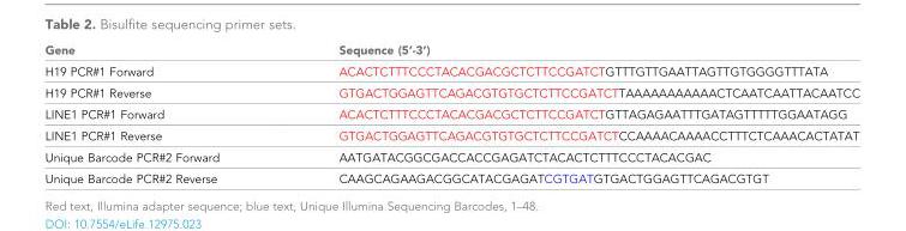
<table><thead><tr><td>Gene</td><td>Sequence (5’-3’)</td></tr></thead><tbody><tr><td>H19 PCR#1 Forward</td><td>ACACTCTTTCCCTACACGACGCTCTTCCGATCTGTTTGTTGAATTAGTTGTGGGGTTTATA</td></tr><tr><td>H19 PCR#1 Reverse</td><td>GTGACTGGAGTTCAGACGTGTGCTCTTCCGATCTTAAAAAAAAAAACTCAATCAATTACAATCC</td></tr><tr><td>LINE1 PCR#1 Forward</td><td>ACACTCTTTCCCTACACGACGCTCTTCCGATCTGTTAGAGAATTTGATAGTTTTTGGAATAGG</td></tr><tr><td>LINE1 PCR#1 Reverse</td><td>GTGACTGGAGTTCAGACGTGTGCTCTTCCGATCTCCAAAACAAAACCTTTCTCAAACACTATAT</td></tr><tr><td>Unique Barcode PCR#2 Forward</td><td>AATGATACGGCGACCACCGAGATCTACACTCTTTCCCTACACGAC</td></tr><tr><td>Unique Barcode PCR#2 Reverse</td><td>CAAGCAGAAGACGGCATACGAGATCGTGATGTGACTGGAGTTCAGACGTGT</td></tr></tbody></table>